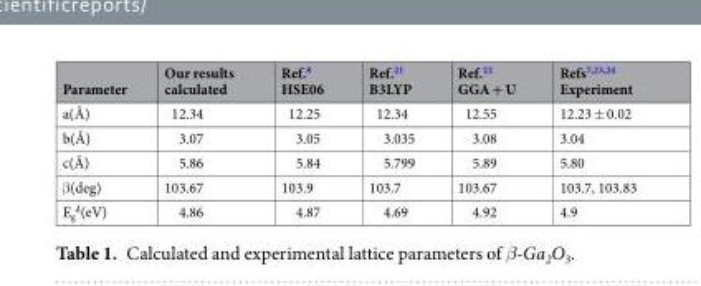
<table><thead><tr><td>Parameter</td><td>Our results calculated</td><td>Ref.<sup>8</sup> HSE06</td><td>Ref.<sup>21</sup> B3LYP</td><td>Ref.<sup>22</sup> GGA + U</td><td>Refs<sup>7,23,24</sup> Experiment</td></tr></thead><tbody><tr><td>a(Å)</td><td>12.34</td><td>12.25</td><td>12.34</td><td>12.55</td><td>12.23 ± 0.02</td></tr><tr><td>b(Å)</td><td>3.07</td><td>3.05</td><td>3.035</td><td>3.08</td><td>3.04</td></tr><tr><td>c(Å)</td><td>5.86</td><td>5.84</td><td>5.799</td><td>5.89</td><td>5.80</td></tr><tr><td>β(deg)</td><td>103.67</td><td>103.9</td><td>103.7</td><td>103.67</td><td>103.7, 103.83</td></tr><tr><td>E<sub>g</sub> <sup>d</sup>(eV)</td><td>4.86</td><td>4.87</td><td>4.69</td><td>4.92</td><td>4.9</td></tr></tbody></table>